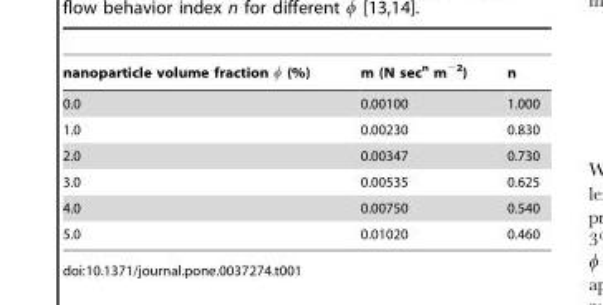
<table><thead><tr><td>nanoparticle volume fraction w (%)</td><td>m (N sec<sup>n</sup> m<sup>−2</sup>)</td><td>n</td></tr></thead><tbody><tr><td>0.0</td><td>0.00100</td><td>1.000</td></tr><tr><td>1.0</td><td>0.00230</td><td>0.830</td></tr><tr><td>2.0</td><td>0.00347</td><td>0.730</td></tr><tr><td>3.0</td><td>0.00535</td><td>0.625</td></tr><tr><td>4.0</td><td>0.00750</td><td>0.540</td></tr><tr><td>5.0</td><td>0.01020</td><td>0.460</td></tr></tbody></table>